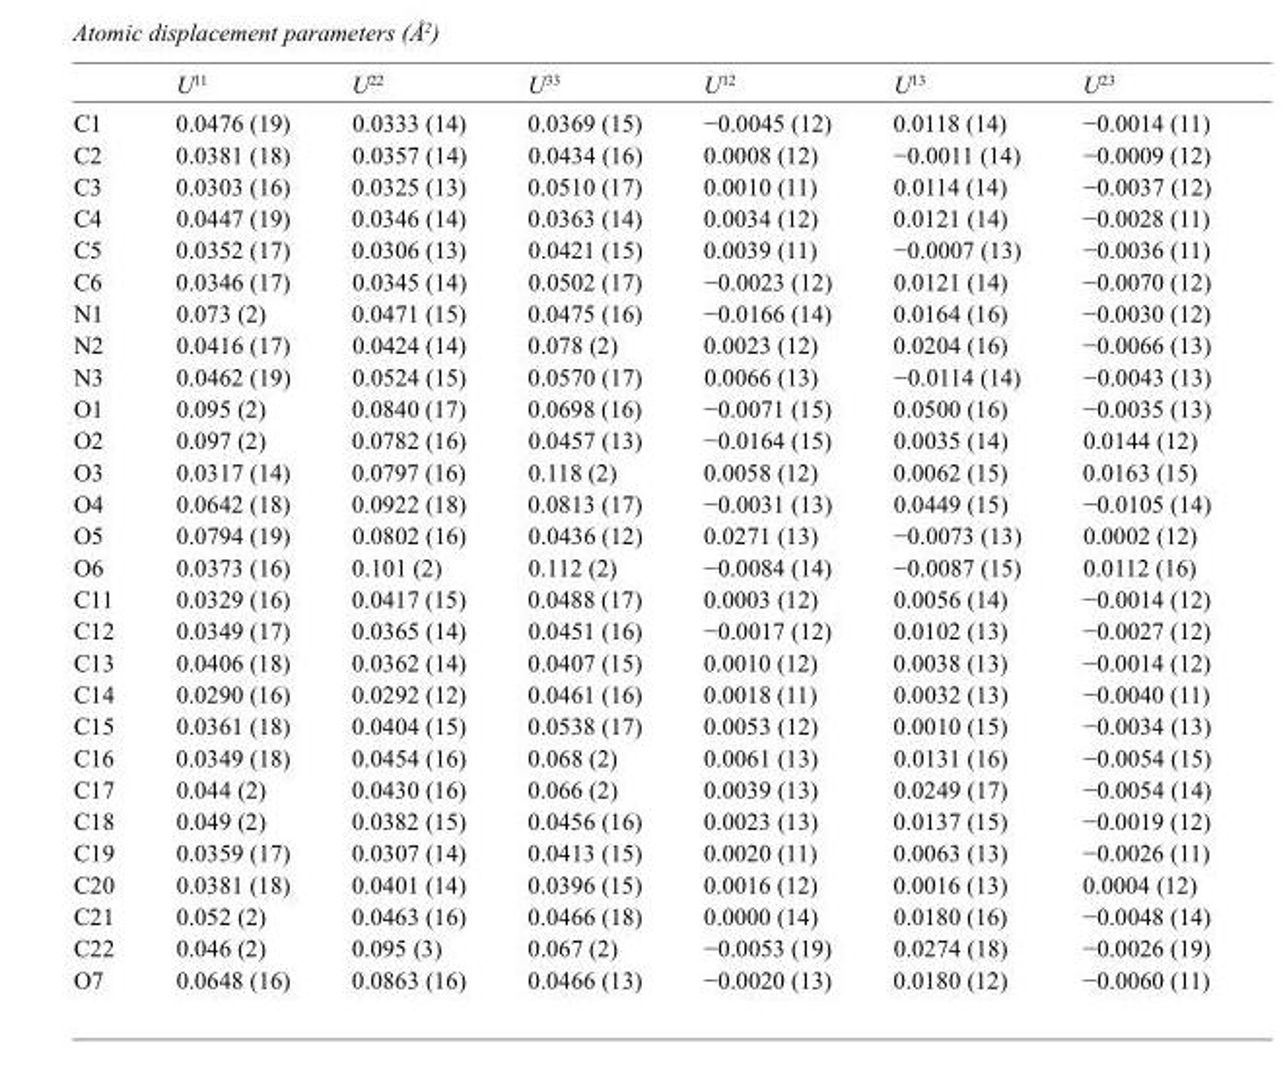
<table><thead><tr><td></td><td>U<sup>11</sup></td><td>U<sup>22</sup></td><td>U<sup>33</sup></td><td>U<sup>12</sup></td><td>U<sup>13</sup></td><td>U<sup>23</sup></td></tr></thead><tbody><tr><td>C1</td><td>0.0476 (19)</td><td>0.0333 (14)</td><td>0.0369 (15)</td><td>−0.0045 (12)</td><td>0.0118 (14)</td><td>−0.0014 (11)</td></tr><tr><td>C2</td><td>0.0381 (18)</td><td>0.0357 (14)</td><td>0.0434 (16)</td><td>0.0008 (12)</td><td>−0.0011 (14)</td><td>−0.0009 (12)</td></tr><tr><td>C3</td><td>0.0303 (16)</td><td>0.0325 (13)</td><td>0.0510 (17)</td><td>0.0010 (11)</td><td>0.0114 (14)</td><td>−0.0037 (12)</td></tr><tr><td>C4</td><td>0.0447 (19)</td><td>0.0346 (14)</td><td>0.0363 (14)</td><td>0.0034 (12)</td><td>0.0121 (14)</td><td>−0.0028 (11)</td></tr><tr><td>C5</td><td>0.0352 (17)</td><td>0.0306 (13)</td><td>0.0421 (15)</td><td>0.0039 (11)</td><td>−0.0007 (13)</td><td>−0.0036 (11)</td></tr><tr><td>C6</td><td>0.0346 (17)</td><td>0.0345 (14)</td><td>0.0502 (17)</td><td>−0.0023 (12)</td><td>0.0121 (14)</td><td>−0.0070 (12)</td></tr><tr><td>N1</td><td>0.073 (2)</td><td>0.0471 (15)</td><td>0.0475 (16)</td><td>−0.0166 (14)</td><td>0.0164 (16)</td><td>−0.0030 (12)</td></tr><tr><td>N2</td><td>0.0416 (17)</td><td>0.0424 (14)</td><td>0.078 (2)</td><td>0.0023 (12)</td><td>0.0204 (16)</td><td>−0.0066 (13)</td></tr><tr><td>N3</td><td>0.0462 (19)</td><td>0.0524 (15)</td><td>0.0570 (17)</td><td>0.0066 (13)</td><td>−0.0114 (14)</td><td>−0.0043 (13)</td></tr><tr><td>O1</td><td>0.095 (2)</td><td>0.0840 (17)</td><td>0.0698 (16)</td><td>−0.0071 (15)</td><td>0.0500 (16)</td><td>−0.0035 (13)</td></tr><tr><td>O2</td><td>0.097 (2)</td><td>0.0782 (16)</td><td>0.0457 (13)</td><td>−0.0164 (15)</td><td>0.0035 (14)</td><td>0.0144 (12)</td></tr><tr><td>O3</td><td>0.0317 (14)</td><td>0.0797 (16)</td><td>0.118 (2)</td><td>0.0058 (12)</td><td>0.0062 (15)</td><td>0.0163 (15)</td></tr><tr><td>O4</td><td>0.0642 (18)</td><td>0.0922 (18)</td><td>0.0813 (17)</td><td>−0.0031 (13)</td><td>0.0449 (15)</td><td>−0.0105 (14)</td></tr><tr><td>O5</td><td>0.0794 (19)</td><td>0.0802 (16)</td><td>0.0436 (12)</td><td>0.0271 (13)</td><td>−0.0073 (13)</td><td>0.0002 (12)</td></tr><tr><td>O6</td><td>0.0373 (16)</td><td>0.101 (2)</td><td>0.112 (2)</td><td>−0.0084 (14)</td><td>−0.0087 (15)</td><td>0.0112 (16)</td></tr><tr><td>C11</td><td>0.0329 (16)</td><td>0.0417 (15)</td><td>0.0488 (17)</td><td>0.0003 (12)</td><td>0.0056 (14)</td><td>−0.0014 (12)</td></tr><tr><td>C12</td><td>0.0349 (17)</td><td>0.0365 (14)</td><td>0.0451 (16)</td><td>−0.0017 (12)</td><td>0.0102 (13)</td><td>−0.0027 (12)</td></tr><tr><td>C13</td><td>0.0406 (18)</td><td>0.0362 (14)</td><td>0.0407 (15)</td><td>0.0010 (12)</td><td>0.0038 (13)</td><td>−0.0014 (12)</td></tr><tr><td>C14</td><td>0.0290 (16)</td><td>0.0292 (12)</td><td>0.0461 (16)</td><td>0.0018 (11)</td><td>0.0032 (13)</td><td>−0.0040 (11)</td></tr><tr><td>C15</td><td>0.0361 (18)</td><td>0.0404 (15)</td><td>0.0538 (17)</td><td>0.0053 (12)</td><td>0.0010 (15)</td><td>−0.0034 (13)</td></tr><tr><td>C16</td><td>0.0349 (18)</td><td>0.0454 (16)</td><td>0.068 (2)</td><td>0.0061 (13)</td><td>0.0131 (16)</td><td>−0.0054 (15)</td></tr><tr><td>C17</td><td>0.044 (2)</td><td>0.0430 (16)</td><td>0.066 (2)</td><td>0.0039 (13)</td><td>0.0249 (17)</td><td>−0.0054 (14)</td></tr><tr><td>C18</td><td>0.049 (2)</td><td>0.0382 (15)</td><td>0.0456 (16)</td><td>0.0023 (13)</td><td>0.0137 (15)</td><td>−0.0019 (12)</td></tr><tr><td>C19</td><td>0.0359 (17)</td><td>0.0307 (14)</td><td>0.0413 (15)</td><td>0.0020 (11)</td><td>0.0063 (13)</td><td>−0.0026 (11)</td></tr><tr><td>C20</td><td>0.0381 (18)</td><td>0.0401 (14)</td><td>0.0396 (15)</td><td>0.0016 (12)</td><td>0.0016 (13)</td><td>0.0004 (12)</td></tr><tr><td>C21</td><td>0.052 (2)</td><td>0.0463 (16)</td><td>0.0466 (18)</td><td>0.0000 (14)</td><td>0.0180 (16)</td><td>−0.0048 (14)</td></tr><tr><td>C22</td><td>0.046 (2)</td><td>0.095 (3)</td><td>0.067 (2)</td><td>−0.0053 (19)</td><td>0.0274 (18)</td><td>−0.0026 (19)</td></tr><tr><td>O7</td><td>0.0648 (16)</td><td>0.0863 (16)</td><td>0.0466 (13)</td><td>−0.0020 (13)</td><td>0.0180 (12)</td><td>−0.0060 (11)</td></tr></tbody></table>